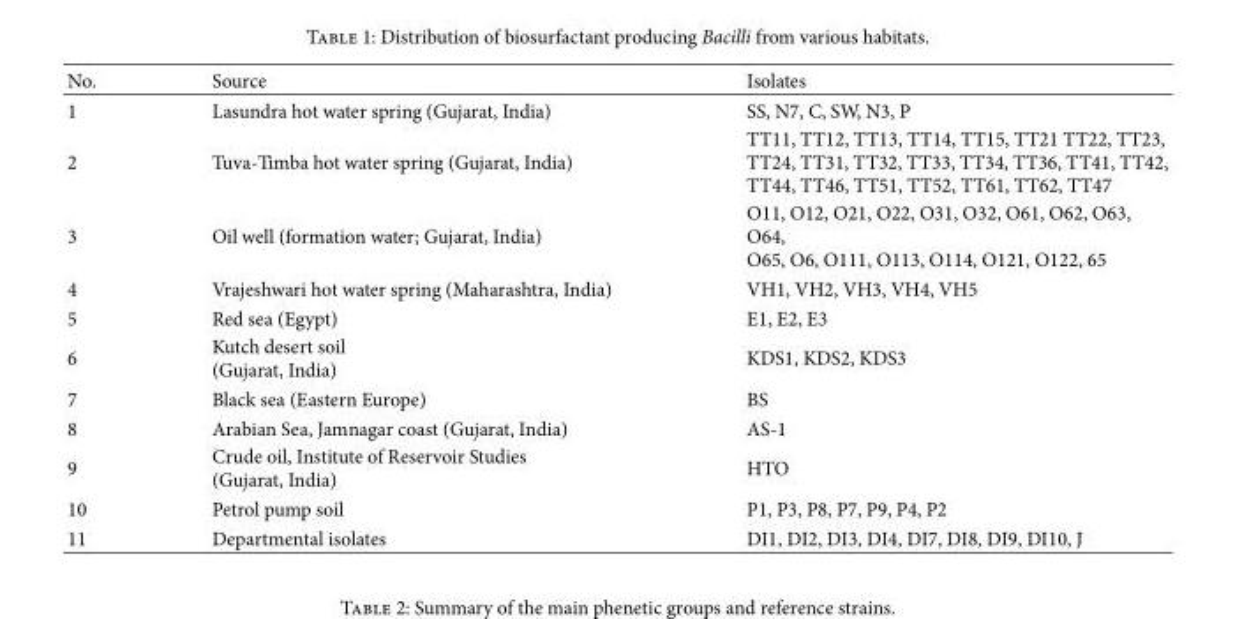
<table><thead><tr><td>No.</td><td>Source</td><td>Isolates</td></tr></thead><tbody><tr><td>1</td><td>Lasundra hot water spring (Gujarat, India)</td><td>SS, N7, C, SW, N3, P</td></tr><tr><td>2</td><td>Tuva-Timba hot water spring (Gujarat, India)</td><td>TT11, TT12, TT13, TT14, TT15, TT21 TT22, TT23, TT24, TT31, TT32, TT33, TT34, TT36, TT41, TT42, TT44, TT46, TT51, TT52, TT61, TT62, TT47</td></tr><tr><td>3</td><td>Oil well (formation water; Gujarat, India)</td><td>O11, O12, O21, O22, O31, O32, O61, O62, O63, O64, O65, O6, O111, O113, O114, O121, O122, 65</td></tr><tr><td>4</td><td>Vrajeshwari hot water spring (Maharashtra, India)</td><td>VH1, VH2, VH3, VH4, VH5</td></tr><tr><td>5</td><td>Red sea (Egypt)</td><td>E1, E2, E3</td></tr><tr><td>6</td><td>Kutch desert soil (Gujarat, India)</td><td>KDS1, KDS2, KDS3</td></tr><tr><td>7</td><td>Black sea (Eastern Europe)</td><td>BS</td></tr><tr><td>8</td><td>Arabian Sea, Jamnagar coast (Gujarat, India)</td><td>AS-1</td></tr><tr><td>9</td><td>Crude oil, Institute of Reservoir Studies (Gujarat, India)</td><td>HTO</td></tr><tr><td>10</td><td>Petrol pump soil</td><td>P1, P3, P8, P7, P9, P4, P2</td></tr><tr><td>11</td><td>Departmental isolates</td><td>DI1, DI2, DI3, DI4, DI7, DI8, DI9, DI10, J</td></tr></tbody></table>